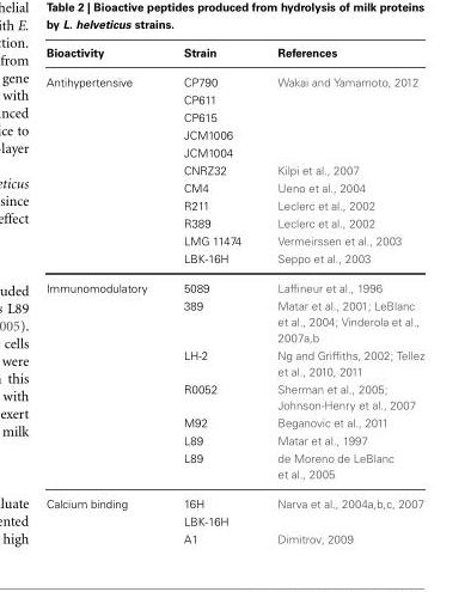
<table><thead><tr><td>Bioactivity</td><td>Strain</td><td>References</td></tr></thead><tbody><tr><td rowspan="11">Antihypertensive</td><td>CP790</td><td>Wakai and Yamamoto, 2012</td></tr><tr><td>CP611</td><td></td></tr><tr><td>CP615</td><td></td></tr><tr><td>JCM1006</td><td></td></tr><tr><td>JCM1004</td><td></td></tr><tr><td>CNRZ32</td><td>Kilpi et al., 2007</td></tr><tr><td>CM4</td><td>Ueno et al., 2004</td></tr><tr><td>R211</td><td>Leclerc et al., 2002</td></tr><tr><td>R389</td><td>Leclerc et al., 2002</td></tr><tr><td>LMG 11474</td><td>Vermeirssen et al., 2003</td></tr><tr><td>LBK-16H</td><td>Seppo et al., 2003</td></tr><tr><td rowspan="7">Immunomodulatory</td><td>5089</td><td>Laffineur et al., 1996</td></tr><tr><td>389</td><td>Matar et al., 2001; LeBlanc et al., 2004; Vinderola et al., 2007a,b</td></tr><tr><td>LH-2</td><td>Ng and Griffiths, 2002; Tellez et al., 2010, 2011</td></tr><tr><td>R0052</td><td>Sherman et al., 2005; Johnson-Henry et al., 2007</td></tr><tr><td>M92</td><td>Beganovic et al., 2011</td></tr><tr><td>L89</td><td>Matar et al., 1997</td></tr><tr><td>L89</td><td>de Moreno de LeBlanc et al., 2005</td></tr><tr><td rowspan="3">Calcium binding</td><td>16H</td><td>Narva et al., 2004a,b,c, 2007</td></tr><tr><td>LBK-16H</td><td></td></tr><tr><td>A1</td><td>Dimitrov, 2009</td></tr></tbody></table>